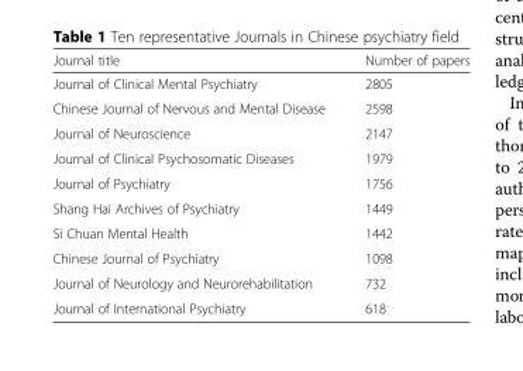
<table><thead><tr><td>Journal title</td><td>Number of papers</td></tr></thead><tbody><tr><td>Journal of Clinical Mental Psychiatry</td><td>2805</td></tr><tr><td>Chinese Journal of Nervous and Mental Disease</td><td>2598</td></tr><tr><td>Journal of Neuroscience</td><td>2147</td></tr><tr><td>Journal of Clinical Psychosomatic Diseases</td><td>1979</td></tr><tr><td>Journal of Psychiatry</td><td>1756</td></tr><tr><td>Shang Hai Archives of Psychiatry</td><td>1449</td></tr><tr><td>Si Chuan Mental Health</td><td>1442</td></tr><tr><td>Chinese Journal of Psychiatry</td><td>1098</td></tr><tr><td>Journal of Neurology and Neurorehabilitation</td><td>732</td></tr><tr><td>Journal of International Psychiatry</td><td>618</td></tr></tbody></table>